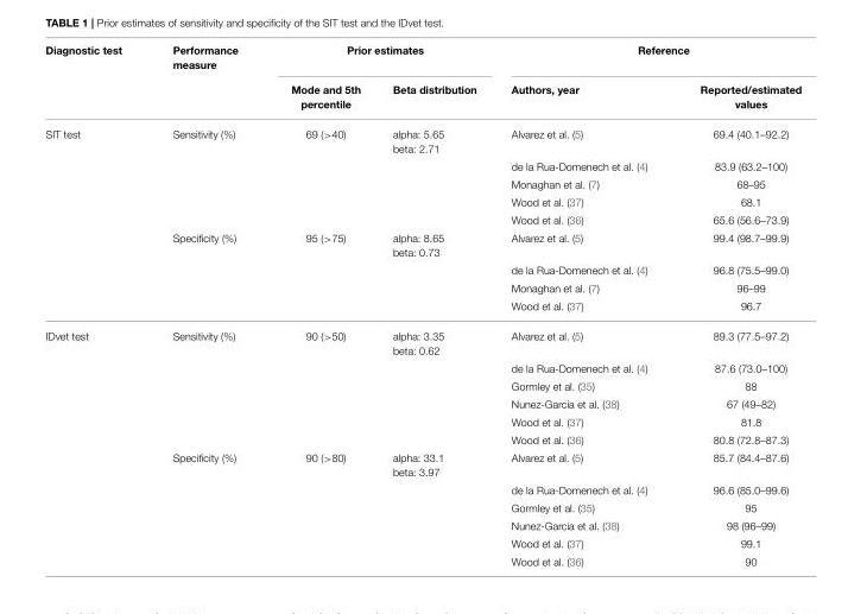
<table><thead><tr><td rowspan="2">Diagnostic test</td><td rowspan="2">Performance measure</td><td colspan="2">Prior estimates</td><td colspan="2">Reference</td></tr><tr><td>Mode and 5th percentile</td><td>Beta distribution</td><td>Authors, year</td><td>Reported/estimated values</td></tr></thead><tbody><tr><td rowspan="9">SIT test</td><td>Sensitivity (%)</td><td>69 (&gt;40)</td><td>alpha: 5.65 beta: 2.71</td><td>Alvarez et al. (5)</td><td>69.4 (40.1–92.2)</td></tr><tr><td></td><td></td><td></td><td>de la Rua-Domenech et al. (4)</td><td>83.9 (63.2–100)</td></tr><tr><td></td><td></td><td></td><td>Monaghan et al. (7)</td><td>68–95</td></tr><tr><td></td><td></td><td></td><td>Wood et al. (37)</td><td>68.1</td></tr><tr><td></td><td></td><td></td><td>Wood et al. (36)</td><td>65.6 (56.6–73.9)</td></tr><tr><td>Specificity (%)</td><td>95 (&gt;75)</td><td>alpha: 8.65 beta: 0.73</td><td>Alvarez et al. (5)</td><td>99.4 (98.7–99.9)</td></tr><tr><td></td><td></td><td></td><td>de la Rua-Domenech et al. (4)</td><td>96.8 (75.5–99.0)</td></tr><tr><td></td><td></td><td></td><td>Monaghan et al. (7)</td><td>96–99</td></tr><tr><td></td><td></td><td></td><td>Wood et al. (37)</td><td>96.7</td></tr><tr><td rowspan="12">IDvet test</td><td>Sensitivity (%)</td><td>90 (&gt;50)</td><td>alpha: 3.35 beta: 0.62</td><td>Alvarez et al. (5)</td><td>89.3 (77.5–97.2)</td></tr><tr><td></td><td></td><td></td><td>de la Rua-Domenech et al. (4)</td><td>87.6 (73.0–100)</td></tr><tr><td></td><td></td><td></td><td>Gormley et al. (35)</td><td>88</td></tr><tr><td></td><td></td><td></td><td>Nunez-Garcia et al. (38)</td><td>67 (49–82)</td></tr><tr><td></td><td></td><td></td><td>Wood et al. (37)</td><td>81.8</td></tr><tr><td></td><td></td><td></td><td>Wood et al. (36)</td><td>80.8 (72.8–87.3)</td></tr><tr><td>Specificity (%)</td><td>90 (&gt;80)</td><td>alpha: 33.1 beta: 3.97</td><td>Alvarez et al. (5)</td><td>85.7 (84.4–87.6)</td></tr><tr><td></td><td></td><td></td><td>de la Rua-Domenech et al. (4)</td><td>96.6 (85.0–99.6)</td></tr><tr><td></td><td></td><td></td><td>Gormley et al. (35)</td><td>95</td></tr><tr><td></td><td></td><td></td><td>Nunez-Garcia et al. (38)</td><td>98 (96–99)</td></tr><tr><td></td><td></td><td></td><td>Wood et al. (37)</td><td>99.1</td></tr><tr><td></td><td></td><td></td><td>Wood et al. (36)</td><td>90</td></tr></tbody></table>